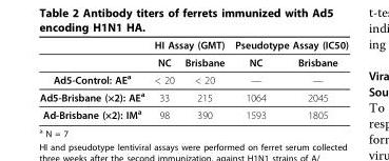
<table><thead><tr><td rowspan="2"></td><td colspan="2">HI Assay (GMT)</td><td colspan="2">Pseudotype Assay (IC50)</td></tr><tr><td>NC</td><td>Brisbane</td><td>NC</td><td>Brisbane</td></tr></thead><tbody><tr><td>Ad5-Control: AEa</td><td>&lt; 20</td><td>&lt; 20</td><td>—</td><td>—</td></tr><tr><td>Ad5-Brisbane (×2): AEa</td><td>33</td><td>215</td><td>1064</td><td>2045</td></tr><tr><td>Ad-Brisbane (×2): IMa</td><td>98</td><td>390</td><td>1593</td><td>1805</td></tr></tbody></table>